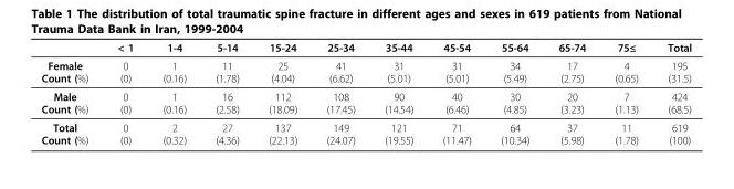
<table><thead><tr><td></td><td>&lt; 1</td><td>1-4</td><td>5-14</td><td>15-24</td><td>25-34</td><td>35-44</td><td>45-54</td><td>55-64</td><td>65-74</td><td>75≤</td><td>Total</td></tr></thead><tbody><tr><td>Female Count (%)</td><td>0 (0)</td><td>1 (0.16)</td><td>11 (1.78)</td><td>25 (4.04)</td><td>41 (6.62)</td><td>31 (5.01)</td><td>31 (5.01)</td><td>34 (5.49)</td><td>17 (2.75)</td><td>4 (0.65)</td><td>195 (31.5)</td></tr><tr><td>Male Count (%)</td><td>0 (0)</td><td>1 (0.16)</td><td>16 (2.58)</td><td>112 (18.09)</td><td>108 (17.45)</td><td>90 (14.54)</td><td>40 (6.46)</td><td>30 (4.85)</td><td>20 (3.23)</td><td>7 (1.13)</td><td>424 (68.5)</td></tr><tr><td>Total Count (%)</td><td>0 (0)</td><td>2 (0.32)</td><td>27 (4.36)</td><td>137 (22.13)</td><td>149 (24.07)</td><td>121 (19.55)</td><td>71 (11.47)</td><td>64 (10.34)</td><td>37 (5.98)</td><td>11 (1.78)</td><td>619 (100)</td></tr></tbody></table>